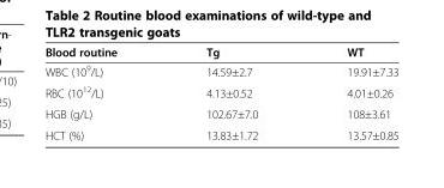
<table><thead><tr><td>Blood routine</td><td>Tg</td><td>WT</td></tr></thead><tbody><tr><td>WBC (10<sup>9</sup>/L)</td><td>14.59±2.7</td><td>19.91±7.33</td></tr><tr><td>RBC (10<sup>12</sup>/L)</td><td>4.13±0.52</td><td>4.01±0.26</td></tr><tr><td>HGB (g/L)</td><td>102.67±7.0</td><td>108±3.61</td></tr><tr><td>HCT (%)</td><td>13.83±1.72</td><td>13.57±0.85</td></tr></tbody></table>